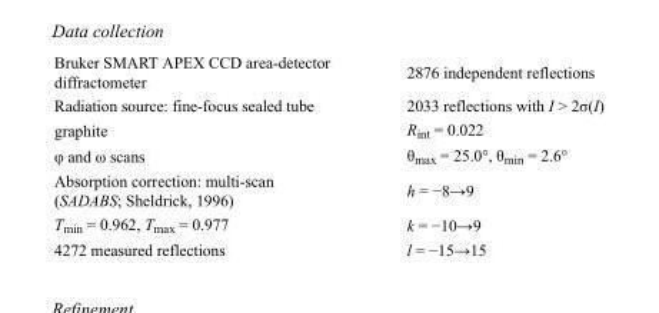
<table><tbody><tr><td>Bruker SMART APEX CCD area-detector diffractometer</td><td>2876 independent reflections</td></tr><tr><td>Radiation source: fine-focus sealed tube</td><td>2033 reflections with I &gt; 2σ(I)</td></tr><tr><td>graphite</td><td>R<sub>int</sub> = 0.022</td></tr><tr><td>φ and ω scans</td><td>θ<sub>max</sub> = 25.0°, θ<sub>min</sub> = 2.6°</td></tr><tr><td>Absorption correction: multi-scan (SADABS; Sheldrick, 1996)</td><td>h = −8→9</td></tr><tr><td>T<sub>min</sub> = 0.962, T<sub>max</sub> = 0.977</td><td>k = −10→9</td></tr><tr><td>4272 measured reflections</td><td>l = −15→15</td></tr></tbody></table>